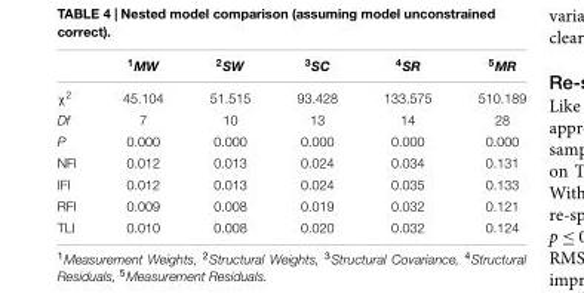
<table><thead><tr><td></td><td><sup>1</sup>MW</td><td><sup>2</sup>SW</td><td><sup>3</sup>SC</td><td><sup>4</sup>SR</td><td><sup>5</sup>MR</td></tr></thead><tbody><tr><td>χ<sup>2</sup></td><td>45.104</td><td>51.515</td><td>93.428</td><td>133.575</td><td>510.189</td></tr><tr><td>Df</td><td>7</td><td>10</td><td>13</td><td>14</td><td>28</td></tr><tr><td>P</td><td>0.000</td><td>0.000</td><td>0.000</td><td>0.000</td><td>0.000</td></tr><tr><td>NFI</td><td>0.012</td><td>0.013</td><td>0.024</td><td>0.034</td><td>0.131</td></tr><tr><td>IFI</td><td>0.012</td><td>0.013</td><td>0.024</td><td>0.035</td><td>0.133</td></tr><tr><td>RFI</td><td>0.009</td><td>0.008</td><td>0.019</td><td>0.032</td><td>0.121</td></tr><tr><td>TLI</td><td>0.010</td><td>0.008</td><td>0.020</td><td>0.032</td><td>0.124</td></tr></tbody></table>